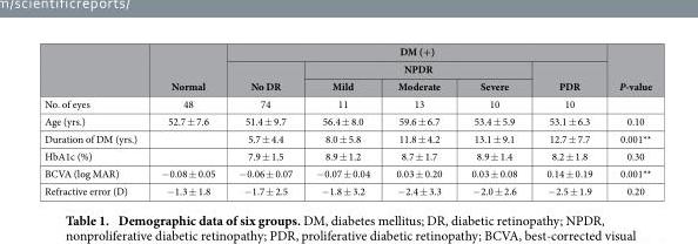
<table><thead><tr><td rowspan="3"></td><td rowspan="3">Normal</td><td colspan="5">DM (+)</td><td rowspan="3">P-value</td></tr><tr><td rowspan="2">No DR</td><td colspan="3">NPDR</td><td rowspan="2">PDR</td></tr><tr><td>Mild</td><td>Moderate</td><td>Severe</td></tr></thead><tbody><tr><td>No. of eyes</td><td>48</td><td>74</td><td>11</td><td>13</td><td>10</td><td>10</td><td></td></tr><tr><td>Age (yrs.)</td><td>52.7 ± 7.6</td><td>51.4 ± 9.7</td><td>56.4 ± 8.0</td><td>59.6 ± 6.7</td><td>53.4 ± 5.9</td><td>53.1 ± 6.3</td><td>0.10</td></tr><tr><td>Duration of DM (yrs.)</td><td></td><td>5.7 ± 4.4</td><td>8.0 ± 5.8</td><td>11.8 ± 4.2</td><td>13.1 ± 9.1</td><td>12.7 ± 7.7</td><td>0.001**</td></tr><tr><td>HbA1c (%)</td><td></td><td>7.9 ± 1.5</td><td>8.9 ± 1.2</td><td>8.7 ± 1.7</td><td>8.9 ± 1.4</td><td>8.2 ± 1.8</td><td>0.30</td></tr><tr><td>BCVA (log MAR)</td><td>− 0.08 ± 0.05</td><td>− 0.06 ± 0.07</td><td>− 0.07 ± 0.04</td><td>0.03 ± 0.20</td><td>0.03 ± 0.08</td><td>0.14 ± 0.19</td><td>0.001**</td></tr><tr><td>Refractive error (D)</td><td>− 1.3 ± 1.8</td><td>− 1.7 ± 2.5</td><td>− 1.8 ± 3.2</td><td>− 2.4 ± 3.3</td><td>− 2.0 ± 2.6</td><td>− 2.5 ± 1.9</td><td>0.20</td></tr></tbody></table>